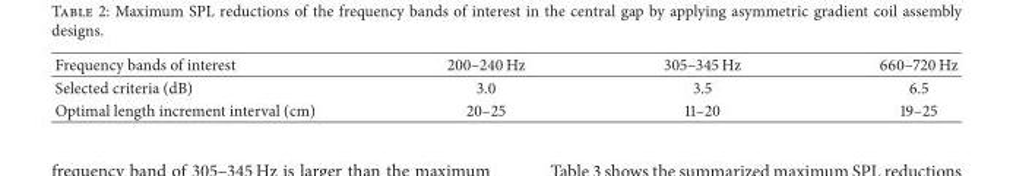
<table><thead><tr><td>Frequency bands of interest</td><td>200–240 Hz</td><td>305–345 Hz</td><td>660–720 Hz</td></tr></thead><tbody><tr><td>Selected criteria (dB)</td><td>3.0</td><td>3.5</td><td>6.5</td></tr><tr><td>Optimal length increment interval (cm)</td><td>20–25</td><td>11–20</td><td>19–25</td></tr></tbody></table>